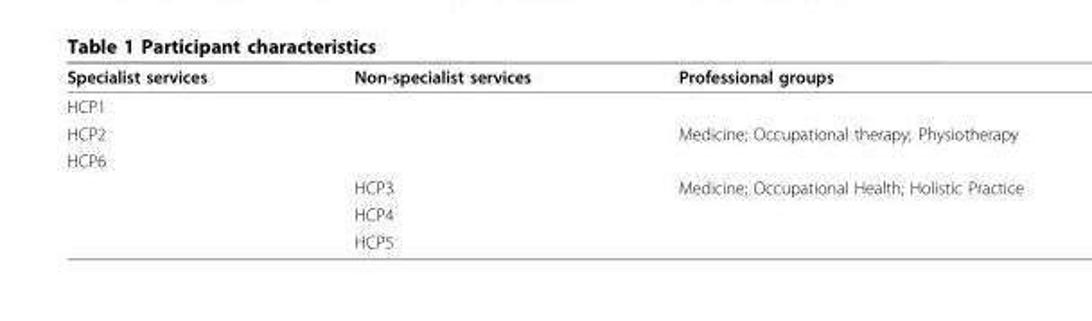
<table><thead><tr><td>Specialist services</td><td>Non-specialist services</td><td>Professional groups</td></tr></thead><tbody><tr><td colspan="3">HCP1</td></tr><tr><td>HCP2</td><td></td><td>Medicine; Occupational therapy; Physiotherapy</td></tr><tr><td colspan="3">HCP6</td></tr><tr><td></td><td>HCP3</td><td>Medicine; Occupational Health; Holistic Practice</td></tr><tr><td></td><td>HCP4</td><td></td></tr><tr><td></td><td>HCP5</td><td></td></tr></tbody></table>